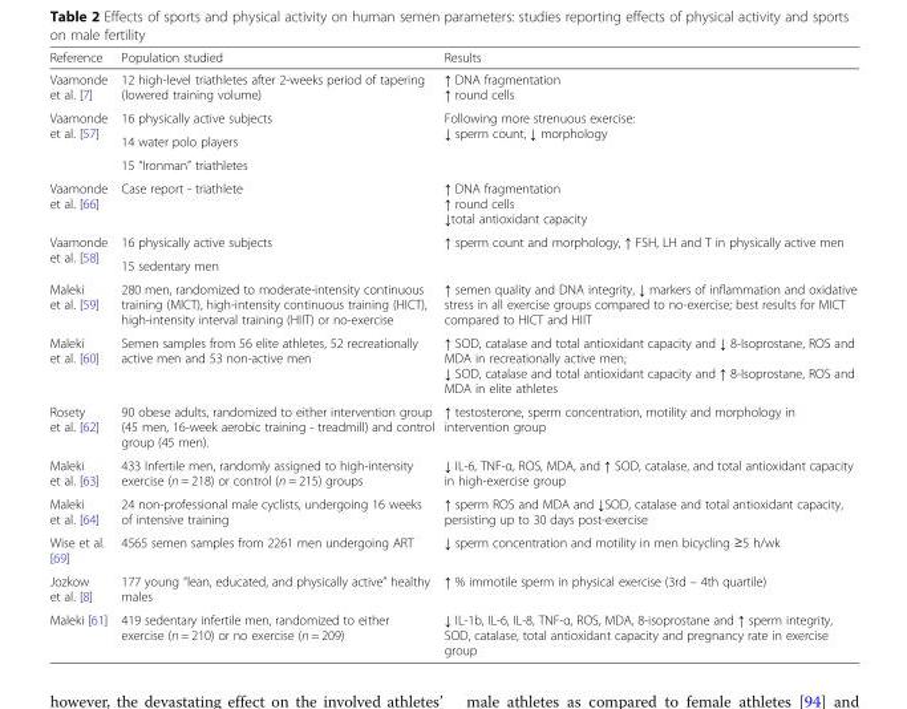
<table><thead><tr><td>Reference</td><td>Population studied</td><td>Results</td></tr></thead><tbody><tr><td>Vaamonde et al. [7]</td><td>12 high-level triathletes after 2-weeks period of tapering (lowered training volume)</td><td>↑ DNA fragmentation ↑ round cells</td></tr><tr><td rowspan="3">Vaamonde et al. [57]</td><td>16 physically active subjects</td><td rowspan="3">Following more strenuous exercise: ↓ sperm count, ↓ morphology</td></tr><tr><td>14 water polo players</td></tr><tr><td>15 “Ironman” triathletes</td></tr><tr><td>Vaamonde et al. [66]</td><td>Case report - triathlete</td><td>↑ DNA fragmentation ↑ round cells ↓total antioxidant capacity</td></tr><tr><td rowspan="2">Vaamonde et al. [58]</td><td>16 physically active subjects</td><td rowspan="2">↑ sperm count and morphology, ↑ FSH, LH and T in physically active men</td></tr><tr><td>15 sedentary men</td></tr><tr><td>Maleki et al. [59]</td><td>280 men, randomized to moderate-intensity continuous training (MICT), high-intensity continuous training (HICT), high-intensity interval training (HIIT) or no-exercise</td><td>↑ semen quality and DNA integrity, ↓ markers of inflammation and oxidative stress in all exercise groups compared to no-exercise; best results for MICT compared to HICT and HIIT</td></tr><tr><td>Maleki et al. [60]</td><td>Semen samples from 56 elite athletes, 52 recreationally active men and 53 non-active men</td><td>↑ SOD, catalase and total antioxidant capacity and ↓ 8-Isoprostane, ROS and MDA in recreationally active men; ↓ SOD, catalase and total antioxidant capacity and ↑ 8-Isoprostane, ROS and MDA in elite athletes</td></tr><tr><td>Rosety et al. [62]</td><td>90 obese adults, randomized to either intervention group (45 men, 16-week aerobic training - treadmill) and control group (45 men).</td><td>↑ testosterone, sperm concentration, motility and morphology in intervention group</td></tr><tr><td>Maleki et al. [63]</td><td>433 Infertile men, randomly assigned to high-intensity exercise (n = 218) or control (n = 215) groups</td><td>↓ IL-6, TNF-α, ROS, MDA, and ↑ SOD, catalase, and total antioxidant capacity in high-exercise group</td></tr><tr><td>Maleki et al. [64]</td><td>24 non-professional male cyclists, undergoing 16 weeks of intensive training</td><td>↑ sperm ROS and MDA and ↓SOD, catalase and total antioxidant capacity, persisting up to 30 days post-exercise</td></tr><tr><td>Wise et al. [69]</td><td>4565 semen samples from 2261 men undergoing ART</td><td>↓ sperm concentration and motility in men bicycling ≥5 h/wk</td></tr><tr><td>Jozkow et al. [8]</td><td>177 young “lean, educated, and physically active” healthy males</td><td>↑ % immotile sperm in physical exercise (3rd – 4th quartile)</td></tr><tr><td>Maleki [61]</td><td>419 sedentary infertile men, randomized to either exercise (n = 210) or no exercise (n = 209)</td><td>↓ IL-1b, IL-6, IL-8, TNF-α, ROS, MDA, 8-isoprostane and ↑ sperm integrity, SOD, catalase, total antioxidant capacity and pregnancy rate in exercise group</td></tr></tbody></table>